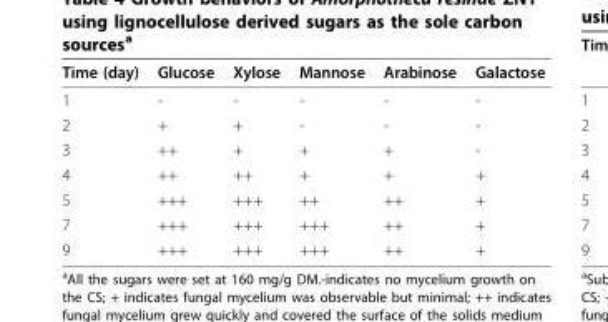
<table><thead><tr><td>Time (day)</td><td>Glucose</td><td>Xylose</td><td>Mannose</td><td>Arabinose</td><td>Galactose</td></tr></thead><tbody><tr><td>1</td><td>-</td><td>-</td><td>-</td><td>-</td><td>-</td></tr><tr><td>2</td><td>+</td><td>+</td><td>-</td><td>-</td><td>-</td></tr><tr><td>3</td><td>++</td><td>+</td><td>+</td><td>+</td><td>-</td></tr><tr><td>4</td><td>++</td><td>++</td><td>+</td><td>+</td><td>+</td></tr><tr><td>5</td><td>+++</td><td>+++</td><td>++</td><td>++</td><td>+</td></tr><tr><td>7</td><td>+++</td><td>+++</td><td>+++</td><td>++</td><td>+</td></tr><tr><td>9</td><td>+++</td><td>+++</td><td>+++</td><td>++</td><td>+</td></tr></tbody></table>